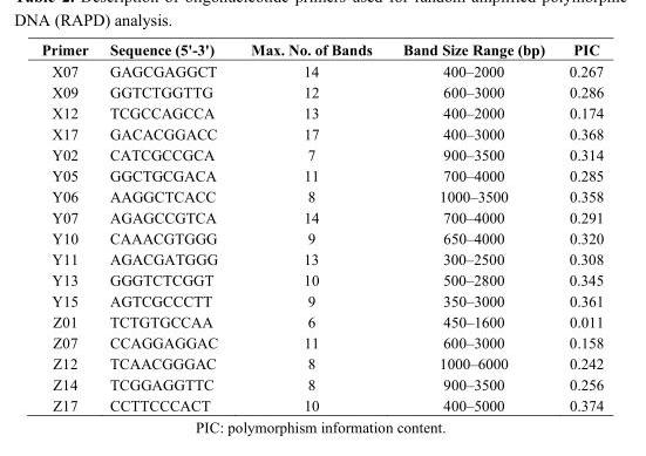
<table><thead><tr><td>Primer</td><td>Sequence (5&#x27;-3&#x27;)</td><td>Max. No. of Bands</td><td>Band Size Range (bp)</td><td>PIC</td></tr></thead><tbody><tr><td>X07</td><td>GAGCGAGGCT</td><td>14</td><td>400–2000</td><td>0.267</td></tr><tr><td>X09</td><td>GGTCTGGTTG</td><td>12</td><td>600–3000</td><td>0.286</td></tr><tr><td>X12</td><td>TCGCCAGCCA</td><td>13</td><td>400–2000</td><td>0.174</td></tr><tr><td>X17</td><td>GACACGGACC</td><td>17</td><td>400–3000</td><td>0.368</td></tr><tr><td>Y02</td><td>CATCGCCGCA</td><td>7</td><td>900–3500</td><td>0.314</td></tr><tr><td>Y05</td><td>GGCTGCGACA</td><td>11</td><td>700–4000</td><td>0.285</td></tr><tr><td>Y06</td><td>AAGGCTCACC</td><td>8</td><td>1000–3500</td><td>0.358</td></tr><tr><td>Y07</td><td>AGAGCCGTCA</td><td>14</td><td>700–4000</td><td>0.291</td></tr><tr><td>Y10</td><td>CAAACGTGGG</td><td>9</td><td>650–4000</td><td>0.320</td></tr><tr><td>Y11</td><td>AGACGATGGG</td><td>13</td><td>300–2500</td><td>0.308</td></tr><tr><td>Y13</td><td>GGGTCTCGGT</td><td>10</td><td>500–2800</td><td>0.345</td></tr><tr><td>Y15</td><td>AGTCGCCCTT</td><td>9</td><td>350–3000</td><td>0.361</td></tr><tr><td>Z01</td><td>TCTGTGCCAA</td><td>6</td><td>450–1600</td><td>0.011</td></tr><tr><td>Z07</td><td>CCAGGAGGAC</td><td>11</td><td>600–3000</td><td>0.158</td></tr><tr><td>Z12</td><td>TCAACGGGAC</td><td>8</td><td>1000–6000</td><td>0.242</td></tr><tr><td>Z14</td><td>TCGGAGGTTC</td><td>8</td><td>900–3500</td><td>0.256</td></tr><tr><td>Z17</td><td>CCTTCCCACT</td><td>10</td><td>400–5000</td><td>0.374</td></tr></tbody></table>